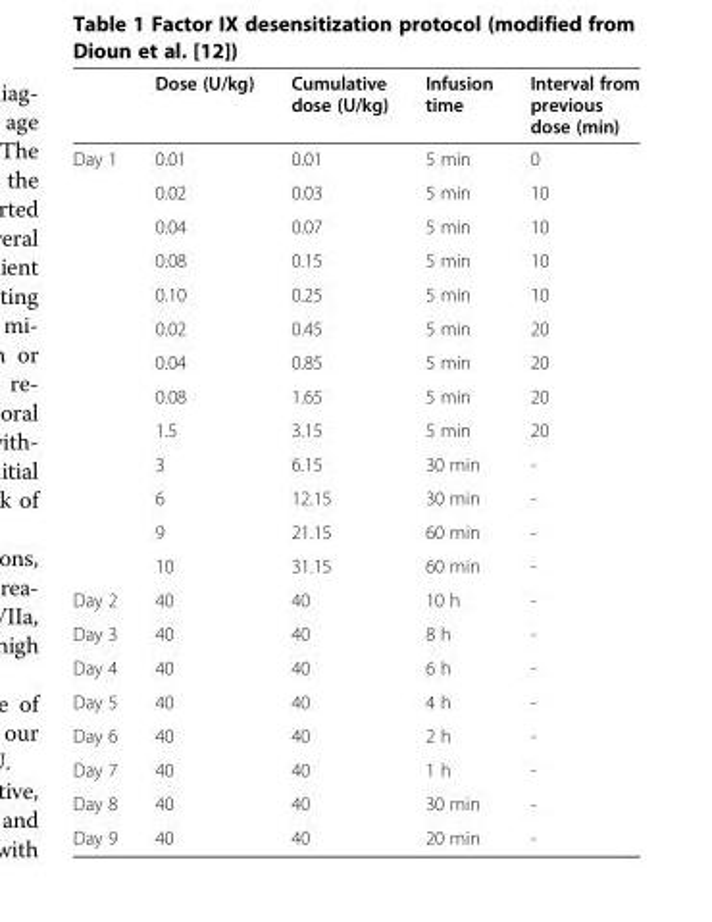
<table><thead><tr><td></td><td>Dose (U/kg)</td><td>Cumulative dose (U/kg)</td><td>Infusion time</td><td>Interval from previous dose (min)</td></tr></thead><tbody><tr><td rowspan="13">Day 1</td><td>0.01</td><td>0.01</td><td>5 min</td><td>0</td></tr><tr><td>0.02</td><td>0.03</td><td>5 min</td><td>10</td></tr><tr><td>0.04</td><td>0.07</td><td>5 min</td><td>10</td></tr><tr><td>0.08</td><td>0.15</td><td>5 min</td><td>10</td></tr><tr><td>0.10</td><td>0.25</td><td>5 min</td><td>10</td></tr><tr><td>0.02</td><td>0.45</td><td>5 min</td><td>20</td></tr><tr><td>0.04</td><td>0.85</td><td>5 min</td><td>20</td></tr><tr><td>0.08</td><td>1.65</td><td>5 min</td><td>20</td></tr><tr><td>1.5</td><td>3.15</td><td>5 min</td><td>20</td></tr><tr><td>3</td><td>6.15</td><td>30 min</td><td>-</td></tr><tr><td>6</td><td>12.15</td><td>30 min</td><td>-</td></tr><tr><td>9</td><td>21.15</td><td>60 min</td><td>-</td></tr><tr><td>10</td><td>31.15</td><td>60 min</td><td>-</td></tr><tr><td>Day 2</td><td>40</td><td>40</td><td>10 h</td><td>-</td></tr><tr><td>Day 3</td><td>40</td><td>40</td><td>8 h</td><td>-</td></tr><tr><td>Day 4</td><td>40</td><td>40</td><td>6 h</td><td>-</td></tr><tr><td>Day 5</td><td>40</td><td>40</td><td>4 h</td><td>-</td></tr><tr><td>Day 6</td><td>40</td><td>40</td><td>2 h</td><td>-</td></tr><tr><td>Day 7</td><td>40</td><td>40</td><td>1 h</td><td>-</td></tr><tr><td>Day 8</td><td>40</td><td>40</td><td>30 min</td><td>-</td></tr><tr><td>Day 9</td><td>40</td><td>40</td><td>20 min</td><td>-</td></tr></tbody></table>